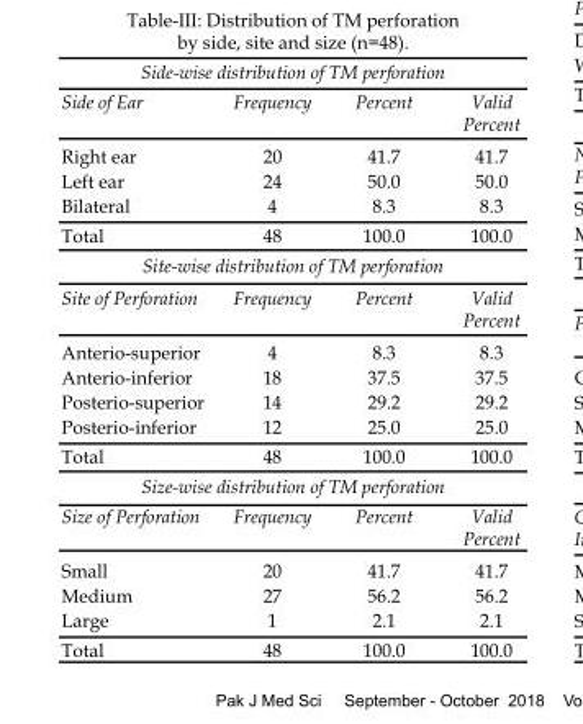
<table><tbody><tr><td colspan="4">Side-wise distribution of TM perforation</td></tr><tr><td>Side of Ear</td><td>Frequency</td><td>Percent</td><td>Valid Percent</td></tr><tr><td>Right ear</td><td>20</td><td>41.7</td><td>41.7</td></tr><tr><td>Left ear</td><td>24</td><td>50.0</td><td>50.0</td></tr><tr><td>Bilateral</td><td>4</td><td>8.3</td><td>8.3</td></tr><tr><td>Total</td><td>48</td><td>100.0</td><td>100.0</td></tr><tr><td colspan="4">Site-wise distribution of TM perforation</td></tr><tr><td>Site of Perforation</td><td>Frequency</td><td>Percent</td><td>Valid Percent</td></tr><tr><td>Anterio-superior</td><td>4</td><td>8.3</td><td>8.3</td></tr><tr><td>Anterio-inferior</td><td>18</td><td>37.5</td><td>37.5</td></tr><tr><td>Posterio-superior</td><td>14</td><td>29.2</td><td>29.2</td></tr><tr><td>Posterio-inferior</td><td>12</td><td>25.0</td><td>25.0</td></tr><tr><td>Total</td><td>48</td><td>100.0</td><td>100.0</td></tr><tr><td colspan="4">Size-wise distribution of TM perforation</td></tr><tr><td>Size of Perforation</td><td>Frequency</td><td>Percent</td><td>Valid Percent</td></tr><tr><td>Small</td><td>20</td><td>41.7</td><td>41.7</td></tr><tr><td>Medium</td><td>27</td><td>56.2</td><td>56.2</td></tr><tr><td>Large</td><td>1</td><td>2.1</td><td>2.1</td></tr><tr><td>Total</td><td>48</td><td>100.0</td><td>100.0</td></tr></tbody></table>